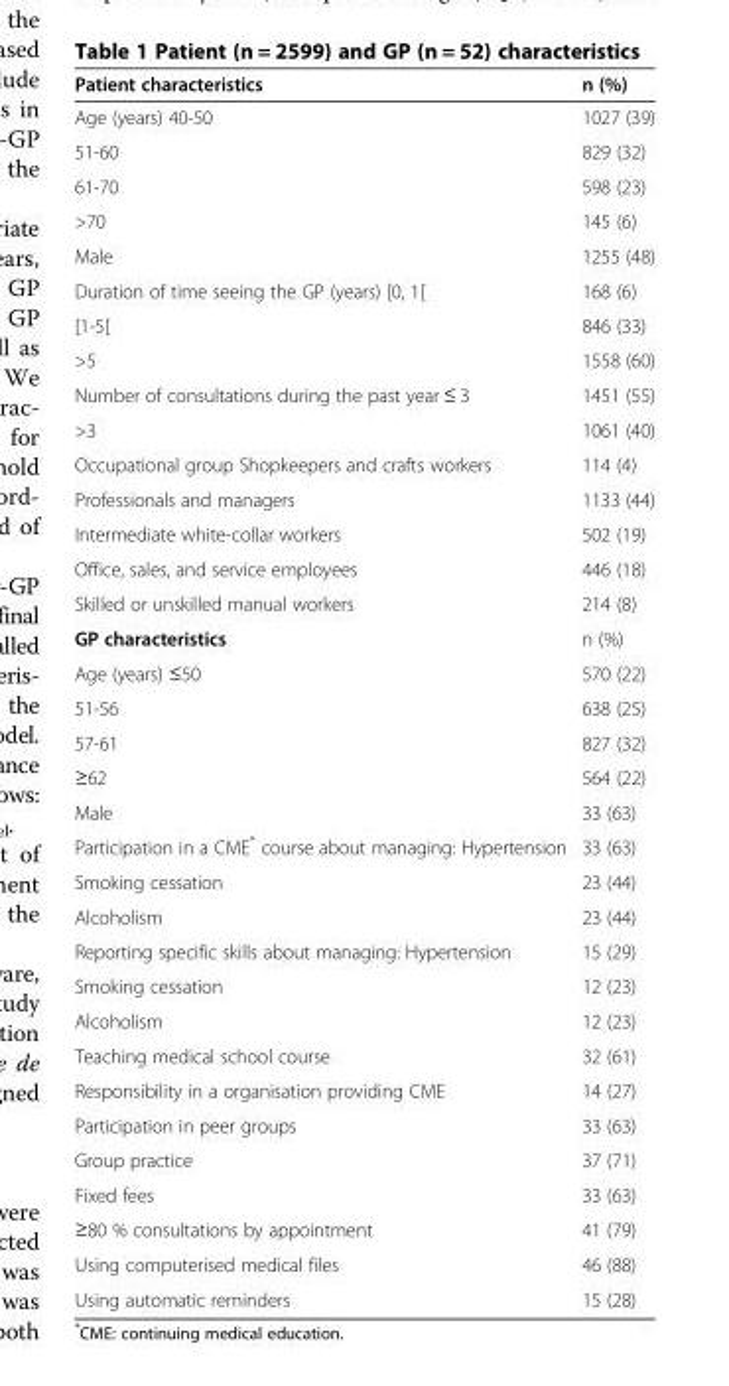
<table><thead><tr><td>Patient characteristics</td><td>n (%)</td></tr></thead><tbody><tr><td>Age (years) 40-50</td><td>1027 (39)</td></tr><tr><td>51-60</td><td>829 (32)</td></tr><tr><td>61-70</td><td>598 (23)</td></tr><tr><td>&gt;70</td><td>145 (6)</td></tr><tr><td>Male</td><td>1255 (48)</td></tr><tr><td>Duration of time seeing the GP (years) [0, 1[</td><td>168 (6)</td></tr><tr><td>[1-5[</td><td>846 (33)</td></tr><tr><td>&gt;5</td><td>1558 (60)</td></tr><tr><td>Number of consultations during the past year ≤ 3</td><td>1451 (55)</td></tr><tr><td>&gt;3</td><td>1061 (40)</td></tr><tr><td>Occupational group Shopkeepers and crafts workers</td><td>114 (4)</td></tr><tr><td>Professionals and managers</td><td>1133 (44)</td></tr><tr><td>Intermediate white-collar workers</td><td>502 (19)</td></tr><tr><td>Office, sales, and service employees</td><td>446 (18)</td></tr><tr><td>Skilled or unskilled manual workers</td><td>214 (8)</td></tr><tr><td>GP characteristics</td><td>n (%)</td></tr><tr><td>Age (years) ≤50</td><td>570 (22)</td></tr><tr><td>51-56</td><td>638 (25)</td></tr><tr><td>57-61</td><td>827 (32)</td></tr><tr><td>≥62</td><td>564 (22)</td></tr><tr><td>Male</td><td>33 (63)</td></tr><tr><td>Participation in a CME* course about managing: Hypertension</td><td>33 (63)</td></tr><tr><td>Smoking cessation</td><td>23 (44)</td></tr><tr><td>Alcoholism</td><td>23 (44)</td></tr><tr><td>Reporting specific skills about managing: Hypertension</td><td>15 (29)</td></tr><tr><td>Smoking cessation</td><td>12 (23)</td></tr><tr><td>Alcoholism</td><td>12 (23)</td></tr><tr><td>Teaching medical school course</td><td>32 (61)</td></tr><tr><td>Responsibility in a organisation providing CME</td><td>14 (27)</td></tr><tr><td>Participation in peer groups</td><td>33 (63)</td></tr><tr><td>Group practice</td><td>37 (71)</td></tr><tr><td>Fixed fees</td><td>33 (63)</td></tr><tr><td>≥80 % consultations by appointment</td><td>41 (79)</td></tr><tr><td>Using computerised medical files</td><td>46 (88)</td></tr><tr><td>Using automatic reminders</td><td>15 (28)</td></tr></tbody></table>